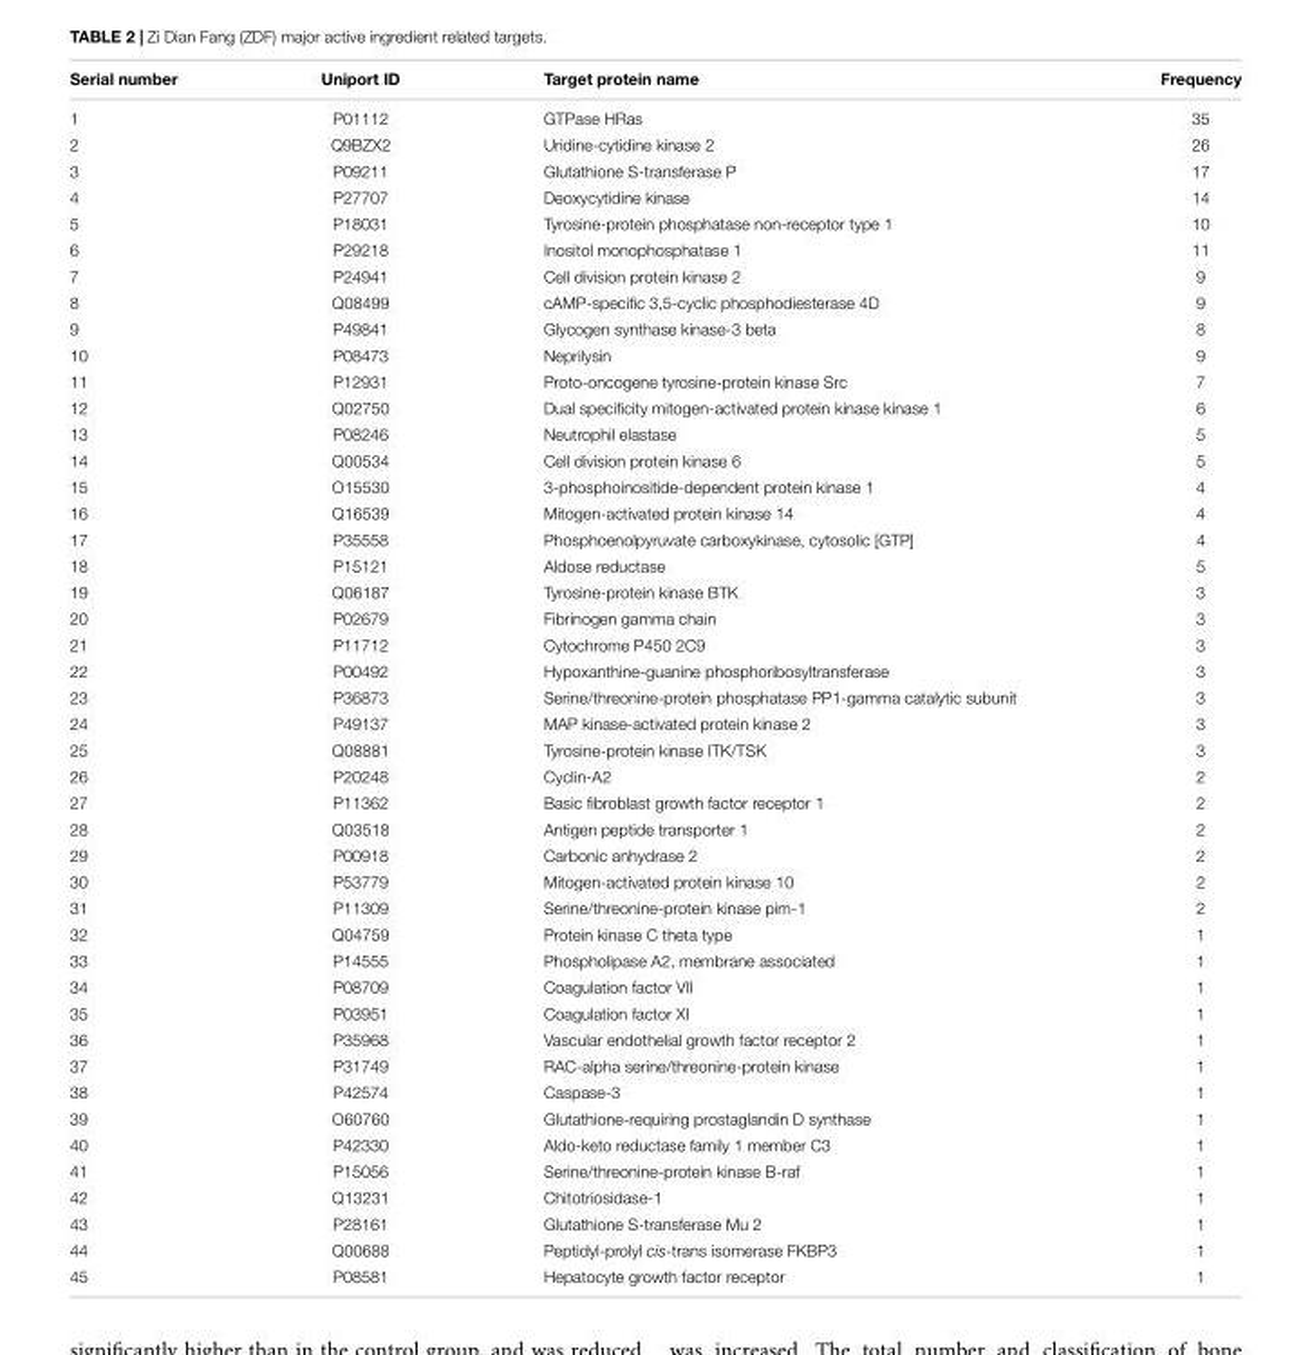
<table><thead><tr><td>Serial number</td><td>Uniport ID</td><td>Target protein name</td><td>Frequency</td></tr></thead><tbody><tr><td>1</td><td>P01112</td><td>GTPase HRas</td><td>35</td></tr><tr><td>2</td><td>Q9BZX2</td><td>Uridine-cytidine kinase 2</td><td>26</td></tr><tr><td>3</td><td>P09211</td><td>Glutathione S-transferase P</td><td>17</td></tr><tr><td>4</td><td>P27707</td><td>Deoxycytidine kinase</td><td>14</td></tr><tr><td>5</td><td>P18031</td><td>Tyrosine-protein phosphatase non-receptor type 1</td><td>10</td></tr><tr><td>6</td><td>P29218</td><td>Inositol monophosphatase 1</td><td>11</td></tr><tr><td>7</td><td>P24941</td><td>Cell division protein kinase 2</td><td>9</td></tr><tr><td>8</td><td>Q08499</td><td>cAMP-specific 3,5-cyclic phosphodiesterase 4D</td><td>9</td></tr><tr><td>9</td><td>P49841</td><td>Glycogen synthase kinase-3 beta</td><td>8</td></tr><tr><td>10</td><td>P08473</td><td>Neprilysin</td><td>9</td></tr><tr><td>11</td><td>P12931</td><td>Proto-oncogene tyrosine-protein kinase Src</td><td>7</td></tr><tr><td>12</td><td>Q02750</td><td>Dual specificity mitogen-activated protein kinase kinase 1</td><td>6</td></tr><tr><td>13</td><td>P08246</td><td>Neutrophil elastase</td><td>5</td></tr><tr><td>14</td><td>Q00534</td><td>Cell division protein kinase 6</td><td>5</td></tr><tr><td>15</td><td>O15530</td><td>3-phosphoinositide-dependent protein kinase 1</td><td>4</td></tr><tr><td>16</td><td>Q16539</td><td>Mitogen-activated protein kinase 14</td><td>4</td></tr><tr><td>17</td><td>P35558</td><td>Phosphoenolpyruvate carboxykinase, cytosolic [GTP]</td><td>4</td></tr><tr><td>18</td><td>P15121</td><td>Aldose reductase</td><td>5</td></tr><tr><td>19</td><td>Q06187</td><td>Tyrosine-protein kinase BTK</td><td>3</td></tr><tr><td>20</td><td>P02679</td><td>Fibrinogen gamma chain</td><td>3</td></tr><tr><td>21</td><td>P11712</td><td>Cytochrome P450 2C9</td><td>3</td></tr><tr><td>22</td><td>P00492</td><td>Hypoxanthine-guanine phosphoribosyltransferase</td><td>3</td></tr><tr><td>23</td><td>P36873</td><td>Serine/threonine-protein phosphatase PP1-gamma catalytic subunit</td><td>3</td></tr><tr><td>24</td><td>P49137</td><td>MAP kinase-activated protein kinase 2</td><td>3</td></tr><tr><td>25</td><td>Q08881</td><td>Tyrosine-protein kinase ITK/TSK</td><td>3</td></tr><tr><td>26</td><td>P20248</td><td>Cyclin-A2</td><td>2</td></tr><tr><td>27</td><td>P11362</td><td>Basic fibroblast growth factor receptor 1</td><td>2</td></tr><tr><td>28</td><td>Q03518</td><td>Antigen peptide transporter 1</td><td>2</td></tr><tr><td>29</td><td>P00918</td><td>Carbonic anhydrase 2</td><td>2</td></tr><tr><td>30</td><td>P53779</td><td>Mitogen-activated protein kinase 10</td><td>2</td></tr><tr><td>31</td><td>P11309</td><td>Serine/threonine-protein kinase pim-1</td><td>2</td></tr><tr><td>32</td><td>Q04759</td><td>Protein kinase C theta type</td><td>1</td></tr><tr><td>33</td><td>P14555</td><td>Phospholipase A2, membrane associated</td><td>1</td></tr><tr><td>34</td><td>P08709</td><td>Coagulation factor VII</td><td>1</td></tr><tr><td>35</td><td>P03951</td><td>Coagulation factor XI</td><td>1</td></tr><tr><td>36</td><td>P35968</td><td>Vascular endothelial growth factor receptor 2</td><td>1</td></tr><tr><td>37</td><td>P31749</td><td>RAC-alpha serine/threonine-protein kinase</td><td>1</td></tr><tr><td>38</td><td>P42574</td><td>Caspase-3</td><td>1</td></tr><tr><td>39</td><td>O60760</td><td>Glutathione-requiring prostaglandin D synthase</td><td>1</td></tr><tr><td>40</td><td>P42330</td><td>Aldo-keto reductase family 1 member C3</td><td>1</td></tr><tr><td>41</td><td>P15056</td><td>Serine/threonine-protein kinase B-raf</td><td>1</td></tr><tr><td>42</td><td>Q13231</td><td>Chitotriosidase-1</td><td>1</td></tr><tr><td>43</td><td>P28161</td><td>Glutathione S-transferase Mu 2</td><td>1</td></tr><tr><td>44</td><td>Q00688</td><td>Peptidyl-prolyl cis-trans isomerase FKBP3</td><td>1</td></tr><tr><td>45</td><td>P08581</td><td>Hepatocyte growth factor receptor</td><td>1</td></tr></tbody></table>